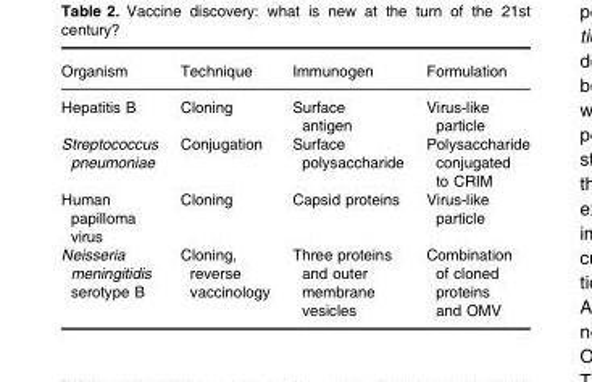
<table><thead><tr><td>Organism</td><td>Technique</td><td>Immunogen</td><td>Formulation</td></tr></thead><tbody><tr><td>Hepatitis B</td><td>Cloning</td><td>Surface antigen</td><td>Virus-like particle</td></tr><tr><td>Streptococcus pneumoniae</td><td>Conjugation</td><td>Surface polysaccharide</td><td>Polysaccharide conjugated to CRIM</td></tr><tr><td>Human papilloma virus</td><td>Cloning</td><td>Capsid proteins</td><td>Virus-like particle</td></tr><tr><td>Neisseria meningitidis serotype B</td><td>Cloning, reverse vaccinology</td><td>Three proteins and outer membrane vesicles</td><td>Combination of cloned proteins and OMV</td></tr></tbody></table>